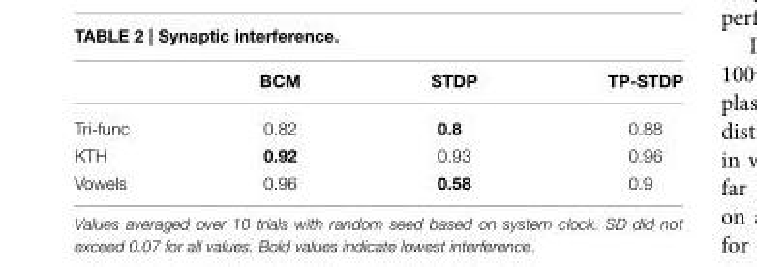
<table><thead><tr><td></td><td>BCM</td><td>STDP</td><td>TP-STDP</td></tr></thead><tbody><tr><td>Tri-func</td><td>0.82</td><td>0.8</td><td>0.88</td></tr><tr><td>KTH</td><td>0.92</td><td>0.93</td><td>0.96</td></tr><tr><td>Vowels</td><td>0.96</td><td>0.58</td><td>0.9</td></tr></tbody></table>